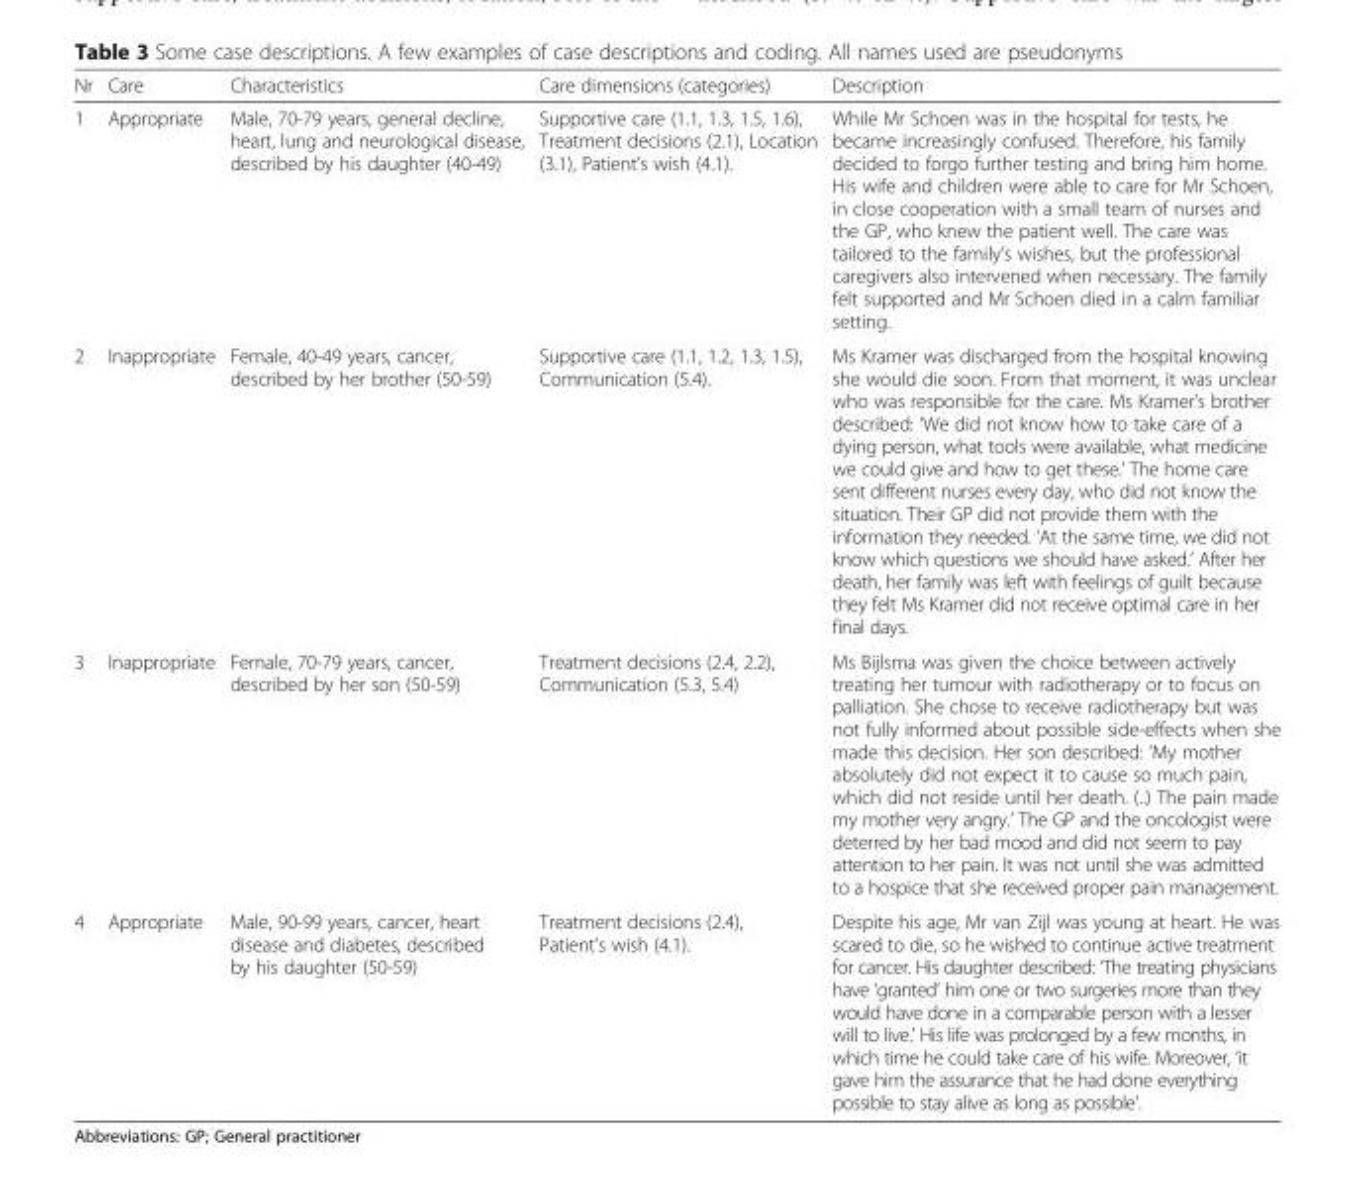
<table><thead><tr><td>Nr</td><td>Care</td><td>Characteristics</td><td>Care dimensions (categories)</td><td>Description</td></tr></thead><tbody><tr><td>1</td><td>Appropriate</td><td>Male, 70-79 years, general decline, heart, lung and neurological disease, described by his daughter (40-49)</td><td>Supportive care (1.1, 1.3, 1.5, 1.6), Treatment decisions (2.1), Location (3.1), Patient’s wish (4.1).</td><td>While Mr Schoen was in the hospital for tests, he became increasingly confused. Therefore, his family decided to forgo further testing and bring him home. His wife and children were able to care for Mr Schoen, in close cooperation with a small team of nurses and the GP, who knew the patient well. The care was tailored to the family’s wishes, but the professional caregivers also intervened when necessary. The family felt supported and Mr Schoen died in a calm familiar setting.</td></tr><tr><td>2</td><td>Inappropriate</td><td>Female, 40-49 years, cancer, described by her brother (50-59)</td><td>Supportive care (1.1, 1.2, 1.3, 1.5), Communication (5.4).</td><td>Ms Kramer was discharged from the hospital knowing she would die soon. From that moment, it was unclear who was responsible for the care. Ms Kramer’s brother described: ‘We did not know how to take care of a dying person, what tools were available, what medicine we could give and how to get these.’ The home care sent different nurses every day, who did not know the situation. Their GP did not provide them with the information they needed. ‘At the same time, we did not know which questions we should have asked.’ After her death, her family was left with feelings of guilt because they felt Ms Kramer did not receive optimal care in her final days.</td></tr><tr><td>3</td><td>Inappropriate</td><td>Female, 70-79 years, cancer, described by her son (50-59)</td><td>Treatment decisions (2.4, 2.2), Communication (5.3, 5.4)</td><td>Ms Bijlsma was given the choice between actively treating her tumour with radiotherapy or to focus on palliation. She chose to receive radiotherapy but was not fully informed about possible side-effects when she made this decision. Her son described: ‘My mother absolutely did not expect it to cause so much pain, which did not reside until her death. (..) The pain made my mother very angry.’ The GP and the oncologist were deterred by her bad mood and did not seem to pay attention to her pain. It was not until she was admitted to a hospice that she received proper pain management.</td></tr><tr><td>4</td><td>Appropriate</td><td>Male, 90-99 years, cancer, heart disease and diabetes, described by his daughter (50-59)</td><td>Treatment decisions (2.4), Patient’s wish (4.1).</td><td>Despite his age, Mr van Zijl was young at heart. He was scared to die, so he wished to continue active treatment for cancer. His daughter described: ‘The treating physicians have ‘granted’ him one or two surgeries more than they would have done in a comparable person with a lesser will to live.’ His life was prolonged by a few months, in which time he could take care of his wife. Moreover, ‘it gave him the assurance that he had done everything possible to stay alive as long as possible’.</td></tr></tbody></table>